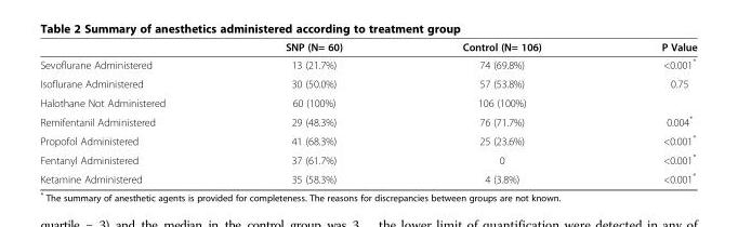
<table><thead><tr><td></td><td>SNP (N= 60)</td><td>Control (N= 106)</td><td>P Value</td></tr></thead><tbody><tr><td>Sevoflurane Administered</td><td>13 (21.7%)</td><td>74 (69.8%)</td><td>&lt;0.001*</td></tr><tr><td>Isoflurane Administered</td><td>30 (50.0%)</td><td>57 (53.8%)</td><td>0.75</td></tr><tr><td>Halothane Not Administered</td><td>60 (100%)</td><td>106 (100%)</td><td></td></tr><tr><td>Remifentanil Administered</td><td>29 (48.3%)</td><td>76 (71.7%)</td><td>0.004*</td></tr><tr><td>Propofol Administered</td><td>41 (68.3%)</td><td>25 (23.6%)</td><td>&lt;0.001*</td></tr><tr><td>Fentanyl Administered</td><td>37 (61.7%)</td><td>0</td><td>&lt;0.001*</td></tr><tr><td>Ketamine Administered</td><td>35 (58.3%)</td><td>4 (3.8%)</td><td>&lt;0.001*</td></tr></tbody></table>